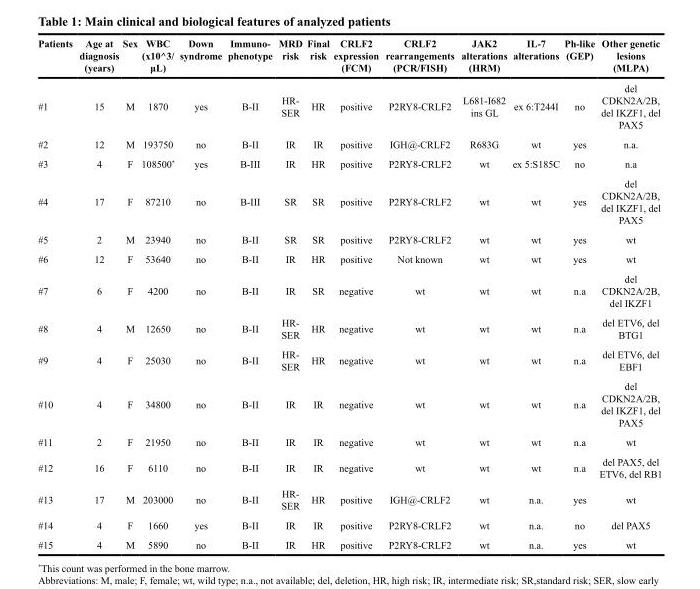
<table><thead><tr><td>Patients</td><td>Age at diagnosis (years)</td><td>Sex</td><td>WBC (x10^3/ μL)</td><td>Down syndrome</td><td>Immuno- phenotype</td><td>MRD risk</td><td>Final risk</td><td>CRLF2 expression (FCM)</td><td>CRLF2 rearrangements (PCR/FISH)</td><td>JAK2 alterations (HRM)</td><td>IL-7 alterations</td><td>Ph-like (GEP)</td><td>Other genetic lesions (MLPA)</td></tr></thead><tbody><tr><td>#1</td><td>15</td><td>M</td><td>1870</td><td>yes</td><td>B-II</td><td>HR- SER</td><td>HR</td><td>positive</td><td>P2RY8-CRLF2</td><td>L681-I682 ins GL</td><td>ex 6:T244I</td><td>no</td><td>del CDKN2A/2B, del IKZF1, del PAX5</td></tr><tr><td>#2</td><td>12</td><td>M</td><td>193750</td><td>no</td><td>B-II</td><td>IR</td><td>IR</td><td>positive</td><td>IGH@-CRLF2</td><td>R683G</td><td>wt</td><td>yes</td><td>n.a.</td></tr><tr><td>#3</td><td>4</td><td>F</td><td>108500*</td><td>yes</td><td>B-III</td><td>IR</td><td>HR</td><td>positive</td><td>P2RY8-CRLF2</td><td>wt</td><td>ex 5:S185C</td><td>no</td><td>n.a</td></tr><tr><td>#4</td><td>17</td><td>F</td><td>87210</td><td>no</td><td>B-III</td><td>SR</td><td>SR</td><td>positive</td><td>P2RY8-CRLF2</td><td>wt</td><td>wt</td><td>yes</td><td>del CDKN2A/2B, del IKZF1, del PAX5</td></tr><tr><td>#5</td><td>2</td><td>M</td><td>23940</td><td>no</td><td>B-II</td><td>SR</td><td>SR</td><td>positive</td><td>P2RY8-CRLF2</td><td>wt</td><td>wt</td><td>yes</td><td>wt</td></tr><tr><td>#6</td><td>12</td><td>F</td><td>53640</td><td>no</td><td>B-II</td><td>IR</td><td>HR</td><td>positive</td><td>Not known</td><td>wt</td><td>wt</td><td>yes</td><td>wt</td></tr><tr><td>#7</td><td>6</td><td>F</td><td>4200</td><td>no</td><td>B-II</td><td>IR</td><td>SR</td><td>negative</td><td>wt</td><td>wt</td><td>wt</td><td>n.a</td><td>del CDKN2A/2B, del IKZF1</td></tr><tr><td>#8</td><td>4</td><td>M</td><td>12650</td><td>no</td><td>B-II</td><td>HR- SER</td><td>HR</td><td>negative</td><td>wt</td><td>wt</td><td>wt</td><td>n.a</td><td>del ETV6, del BTG1</td></tr><tr><td>#9</td><td>4</td><td>F</td><td>25030</td><td>no</td><td>B-II</td><td>HR- SER</td><td>HR</td><td>negative</td><td>wt</td><td>wt</td><td>wt</td><td>n.a</td><td>del ETV6, del EBF1</td></tr><tr><td>#10</td><td>4</td><td>F</td><td>34800</td><td>no</td><td>B-II</td><td>IR</td><td>IR</td><td>negative</td><td>wt</td><td>wt</td><td>wt</td><td>n.a</td><td>del CDKN2A/2B, del IKZF1, del PAX5</td></tr><tr><td>#11</td><td>2</td><td>F</td><td>21950</td><td>no</td><td>B-II</td><td>IR</td><td>IR</td><td>negative</td><td>wt</td><td>wt</td><td>wt</td><td>n.a</td><td>wt</td></tr><tr><td>#12</td><td>16</td><td>F</td><td>6110</td><td>no</td><td>B-II</td><td>IR</td><td>IR</td><td>negative</td><td>wt</td><td>wt</td><td>wt</td><td>n.a</td><td>del PAX5, del ETV6, del RB1</td></tr><tr><td>#13</td><td>17</td><td>M</td><td>203000</td><td>no</td><td>B-II</td><td>HR- SER</td><td>HR</td><td>positive</td><td>IGH@-CRLF2</td><td>wt</td><td>n.a.</td><td>yes</td><td>wt</td></tr><tr><td>#14</td><td>4</td><td>F</td><td>1660</td><td>yes</td><td>B-II</td><td>IR</td><td>IR</td><td>positive</td><td>P2RY8-CRLF2</td><td>wt</td><td>n.a.</td><td>no</td><td>del PAX5</td></tr><tr><td>#15</td><td>4</td><td>M</td><td>5890</td><td>no</td><td>B-II</td><td>IR</td><td>HR</td><td>positive</td><td>P2RY8-CRLF2</td><td>wt</td><td>n.a.</td><td>yes</td><td>wt</td></tr></tbody></table>